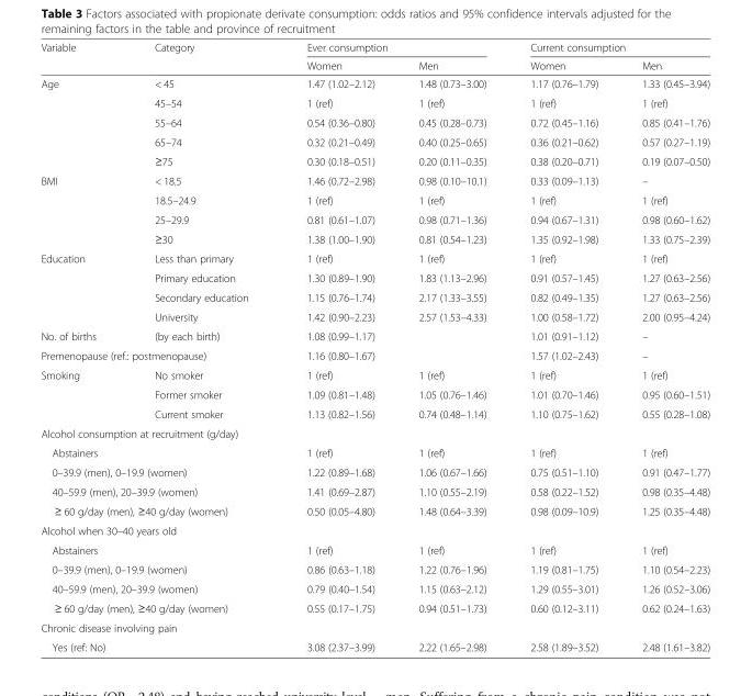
<table><thead><tr><td rowspan="2">Variable</td><td rowspan="2">Category</td><td colspan="2">Ever consumption</td><td colspan="2">Current consumption</td></tr><tr><td>Women</td><td>Men</td><td>Women</td><td>Men</td></tr></thead><tbody><tr><td rowspan="5">Age</td><td>&lt; 45</td><td>1.47 (1.02–2.12)</td><td>1.48 (0.73–3.00)</td><td>1.17 (0.76–1.79)</td><td>1.33 (0.45–3.94)</td></tr><tr><td>45–54</td><td>1 (ref)</td><td>1 (ref)</td><td>1 (ref)</td><td>1 (ref)</td></tr><tr><td>55–64</td><td>0.54 (0.36–0.80)</td><td>0.45 (0.28–0.73)</td><td>0.72 (0.45–1.16)</td><td>0.85 (0.41–1.76)</td></tr><tr><td>65–74</td><td>0.32 (0.21–0.49)</td><td>0.40 (0.25–0.65)</td><td>0.36 (0.21–0.62)</td><td>0.57 (0.27–1.19)</td></tr><tr><td>≥75</td><td>0.30 (0.18–0.51)</td><td>0.20 (0.11–0.35)</td><td>0.38 (0.20–0.71)</td><td>0.19 (0.07–0.50)</td></tr><tr><td rowspan="4">BMI</td><td>&lt; 18.5</td><td>1.46 (0.72–2.98)</td><td>0.98 (0.10–10.1)</td><td>0.33 (0.09–1.13)</td><td>–</td></tr><tr><td>18.5–24.9</td><td>1 (ref)</td><td>1 (ref)</td><td>1 (ref)</td><td>1 (ref)</td></tr><tr><td>25–29.9</td><td>0.81 (0.61–1.07)</td><td>0.98 (0.71–1.36)</td><td>0.94 (0.67–1.31)</td><td>0.98 (0.60–1.62)</td></tr><tr><td>≥30</td><td>1.38 (1.00–1.90)</td><td>0.81 (0.54–1.23)</td><td>1.35 (0.92–1.98)</td><td>1.33 (0.75–2.39)</td></tr><tr><td rowspan="4">Education</td><td>Less than primary</td><td>1 (ref)</td><td>1 (ref)</td><td>1 (ref)</td><td>1 (ref)</td></tr><tr><td>Primary education</td><td>1.30 (0.89–1.90)</td><td>1.83 (1.13–2.96)</td><td>0.91 (0.57–1.45)</td><td>1.27 (0.63–2.56)</td></tr><tr><td>Secondary education</td><td>1.15 (0.76–1.74)</td><td>2.17 (1.33–3.55)</td><td>0.82 (0.49–1.35)</td><td>1.27 (0.63–2.56)</td></tr><tr><td>University</td><td>1.42 (0.90–2.23)</td><td>2.57 (1.53–4.33)</td><td>1.00 (0.58–1.72)</td><td>2.00 (0.95–4.24)</td></tr><tr><td>No. of births</td><td>(by each birth)</td><td>1.08 (0.99–1.17)</td><td></td><td>1.01 (0.91–1.12)</td><td>–</td></tr><tr><td colspan="2">Premenopause (ref.: postmenopause)</td><td>1.16 (0.80–1.67)</td><td></td><td>1.57 (1.02–2.43)</td><td>–</td></tr><tr><td rowspan="3">Smoking</td><td>No smoker</td><td>1 (ref)</td><td>1 (ref)</td><td>1 (ref)</td><td>1 (ref)</td></tr><tr><td>Former smoker</td><td>1.09 (0.81–1.48)</td><td>1.05 (0.76–1.46)</td><td>1.01 (0.70–1.46)</td><td>0.95 (0.60–1.51)</td></tr><tr><td>Current smoker</td><td>1.13 (0.82–1.56)</td><td>0.74 (0.48–1.14)</td><td>1.10 (0.75–1.62)</td><td>0.55 (0.28–1.08)</td></tr><tr><td colspan="6">Alcohol consumption at recruitment (g/day)</td></tr><tr><td colspan="2">Abstainers</td><td>1 (ref)</td><td>1 (ref)</td><td>1 (ref)</td><td>1 (ref)</td></tr><tr><td colspan="2">0–39.9 (men), 0–19.9 (women)</td><td>1.22 (0.89–1.68)</td><td>1.06 (0.67–1.66)</td><td>0.75 (0.51–1.10)</td><td>0.91 (0.47–1.77)</td></tr><tr><td colspan="2">40–59.9 (men), 20–39.9 (women)</td><td>1.41 (0.69–2.87)</td><td>1.10 (0.55–2.19)</td><td>0.58 (0.22–1.52)</td><td>0.98 (0.35–4.48)</td></tr><tr><td colspan="2">≥ 60 g/day (men), ≥40 g/day (women)</td><td>0.50 (0.05–4.80)</td><td>1.48 (0.64–3.39)</td><td>0.98 (0.09–10.9)</td><td>1.25 (0.35–4.48)</td></tr><tr><td colspan="6">Alcohol when 30–40 years old</td></tr><tr><td colspan="2">Abstainers</td><td>1 (ref)</td><td>1 (ref)</td><td>1 (ref)</td><td>1 (ref)</td></tr><tr><td colspan="2">0–39.9 (men), 0–19.9 (women)</td><td>0.86 (0.63–1.18)</td><td>1.22 (0.76–1.96)</td><td>1.19 (0.81–1.75)</td><td>1.10 (0.54–2.23)</td></tr><tr><td colspan="2">40–59.9 (men), 20–39.9 (women)</td><td>0.79 (0.40–1.54)</td><td>1.15 (0.63–2.12)</td><td>1.29 (0.55–3.01)</td><td>1.26 (0.52–3.06)</td></tr><tr><td colspan="2">≥ 60 g/day (men), ≥40 g/day (women)</td><td>0.55 (0.17–1.75)</td><td>0.94 (0.51–1.73)</td><td>0.60 (0.12–3.11)</td><td>0.62 (0.24–1.63)</td></tr><tr><td colspan="6">Chronic disease involving pain</td></tr><tr><td colspan="2">Yes (ref: No)</td><td>3.08 (2.37–3.99)</td><td>2.22 (1.65–2.98)</td><td>2.58 (1.89–3.52)</td><td>2.48 (1.61–3.82)</td></tr></tbody></table>